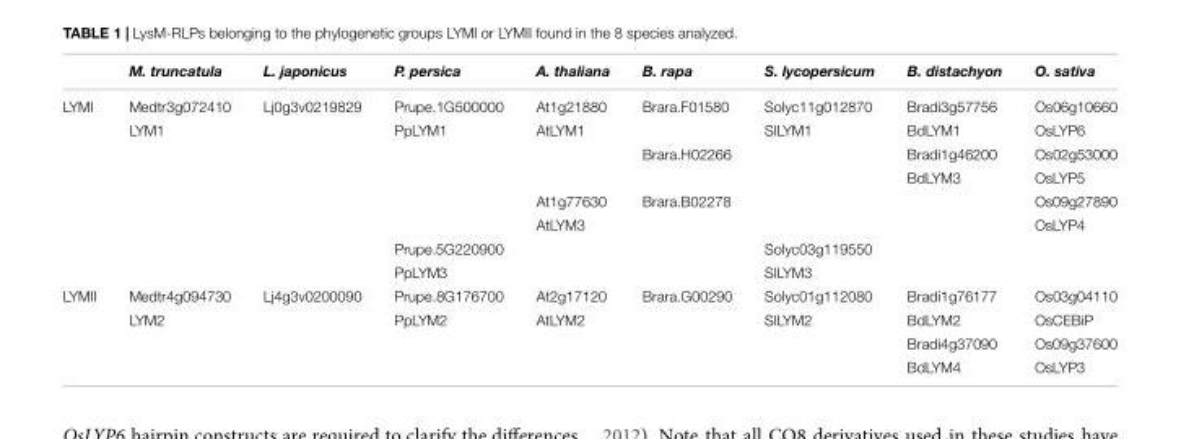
<table><thead><tr><td></td><td>M. truncatula</td><td>L. japonicus</td><td>P. persica</td><td>A. thaliana</td><td>B. rapa</td><td>S. lycopersicum</td><td>B. distachyon</td><td>O. sativa</td></tr></thead><tbody><tr><td rowspan="8">LYMI</td><td>Medtr3g072410</td><td>Lj0g3v0219829</td><td>Prupe.1G500000</td><td>At1g21880</td><td>Brara.F01580</td><td>Solyc11g012870</td><td>Bradi3g57756</td><td>Os06g10660</td></tr><tr><td>LYM1</td><td></td><td>PpLYM1</td><td>AtLYM1</td><td></td><td>SlLYM1</td><td>BdLYM1</td><td>OsLYP6</td></tr><tr><td></td><td></td><td></td><td></td><td>Brara.H02266</td><td></td><td>Bradi1g46200</td><td>Os02g53000</td></tr><tr><td></td><td></td><td></td><td></td><td></td><td></td><td>BdLYM3</td><td>OsLYP5</td></tr><tr><td></td><td></td><td></td><td>At1g77630</td><td>Brara.B02278</td><td></td><td></td><td>Os09g27890</td></tr><tr><td></td><td></td><td></td><td>AtLYM3</td><td></td><td></td><td></td><td>OsLYP4</td></tr><tr><td></td><td></td><td>Prupe.5G220900</td><td></td><td></td><td>Solyc03g119550</td><td></td><td></td></tr><tr><td></td><td></td><td>PpLYM3</td><td></td><td></td><td>SlLYM3</td><td></td><td></td></tr><tr><td rowspan="4">LYMII</td><td>Medtr4g094730</td><td>Lj4g3v0200090</td><td>Prupe.8G176700</td><td>At2g17120</td><td>Brara.G00290</td><td>Solyc01g112080</td><td>Bradi1g76177</td><td>Os03g04110</td></tr><tr><td>LYM2</td><td></td><td>PpLYM2</td><td>AtLYM2</td><td></td><td>SlLYM2</td><td>BdLYM2</td><td>OsCEBiP</td></tr><tr><td></td><td></td><td></td><td></td><td></td><td></td><td>Bradi4g37090</td><td>Os09g37600</td></tr><tr><td></td><td></td><td></td><td></td><td></td><td></td><td>BdLYM4</td><td>OsLYP3</td></tr></tbody></table>